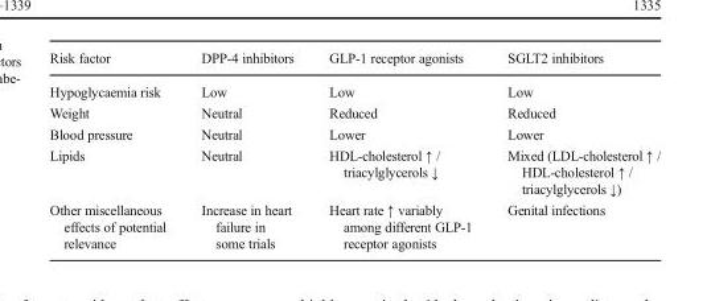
<table><thead><tr><td>Risk factor</td><td>DPP-4 inhibitors</td><td>GLP-1 receptor agonists</td><td>SGLT2 inhibitors</td></tr></thead><tbody><tr><td>Hypoglycaemia risk</td><td>Low</td><td>Low</td><td>Low</td></tr><tr><td>Weight</td><td>Neutral</td><td>Reduced</td><td>Reduced</td></tr><tr><td>Blood pressure</td><td>Neutral</td><td>Lower</td><td>Lower</td></tr><tr><td>Lipids</td><td>Neutral</td><td>HDL-cholesterol ↑ / triacylglycerols ↓</td><td>Mixed (LDL-cholesterol ↑ / HDL-cholesterol ↑ / triacylglycerols ↓)</td></tr><tr><td>Other miscellaneous effects of potential relevance</td><td>Increase in heart failure in some trials</td><td>Heart rate ↑ variably among different GLP-1 receptor agonists</td><td>Genital infections</td></tr></tbody></table>